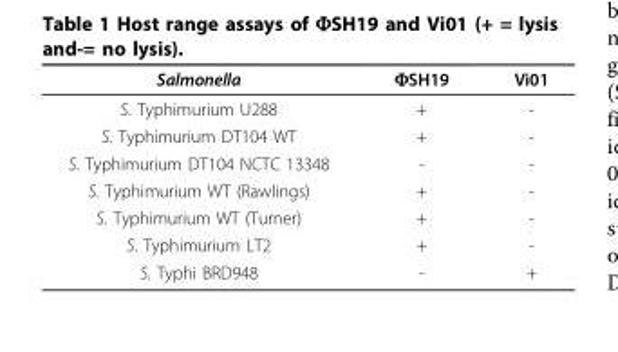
<table><thead><tr><td>Salmonella</td><td>ΦSH19</td><td>Vi01</td></tr></thead><tbody><tr><td>S. Typhimurium U288</td><td>+</td><td>-</td></tr><tr><td>S. Typhimurium DT104 WT</td><td>+</td><td>-</td></tr><tr><td>S. Typhimurium DT104 NCTC 13348</td><td>-</td><td>-</td></tr><tr><td>S. Typhimurium WT (Rawlings)</td><td>+</td><td>-</td></tr><tr><td>S. Typhimurium WT (Turner)</td><td>+</td><td>-</td></tr><tr><td>S. Typhimurium LT2</td><td>+</td><td>-</td></tr><tr><td>S. Typhi BRD948</td><td>-</td><td>+</td></tr></tbody></table>